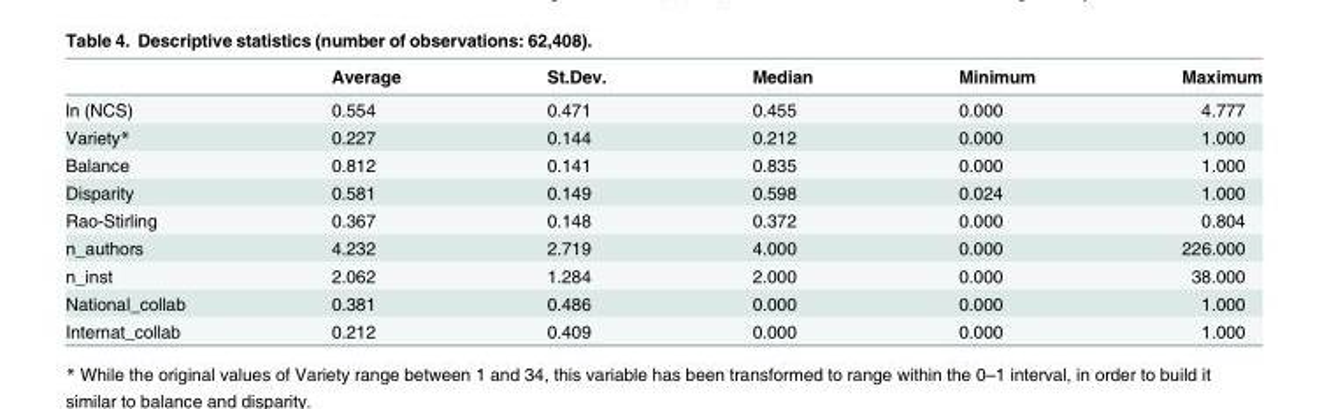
<table><thead><tr><td></td><td>Average</td><td>St.Dev.</td><td>Median</td><td>Minimum</td><td>Maximum</td></tr></thead><tbody><tr><td>ln (NCS)</td><td>0.554</td><td>0.471</td><td>0.455</td><td>0.000</td><td>4.777</td></tr><tr><td>Variety*</td><td>0.227</td><td>0.144</td><td>0.212</td><td>0.000</td><td>1.000</td></tr><tr><td>Balance</td><td>0.812</td><td>0.141</td><td>0.835</td><td>0.000</td><td>1.000</td></tr><tr><td>Disparity</td><td>0.581</td><td>0.149</td><td>0.598</td><td>0.024</td><td>1.000</td></tr><tr><td>Rao-Stirling</td><td>0.367</td><td>0.148</td><td>0.372</td><td>0.000</td><td>0.804</td></tr><tr><td>n_authors</td><td>4.232</td><td>2.719</td><td>4.000</td><td>0.000</td><td>226.000</td></tr><tr><td>n_inst</td><td>2.062</td><td>1.284</td><td>2.000</td><td>0.000</td><td>38.000</td></tr><tr><td>National_collab</td><td>0.381</td><td>0.486</td><td>0.000</td><td>0.000</td><td>1.000</td></tr><tr><td>Internat_collab</td><td>0.212</td><td>0.409</td><td>0.000</td><td>0.000</td><td>1.000</td></tr></tbody></table>